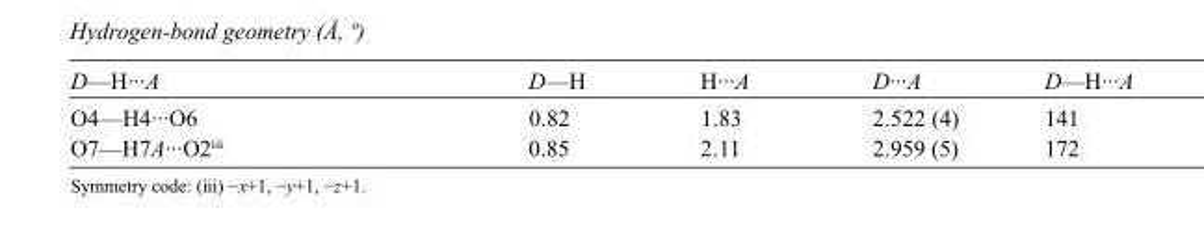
<table><tbody><tr><td>D—H···A</td><td>D—H</td><td>H···A</td><td>D···A</td><td>D—H···A</td></tr><tr><td>O4—H4···O6</td><td>0.82</td><td>1.83</td><td>2.522 (4)</td><td>141</td></tr><tr><td>O7—H7A···O2<sup>iii</sup></td><td>0.85</td><td>2.11</td><td>2.959 (5)</td><td>172</td></tr></tbody></table>